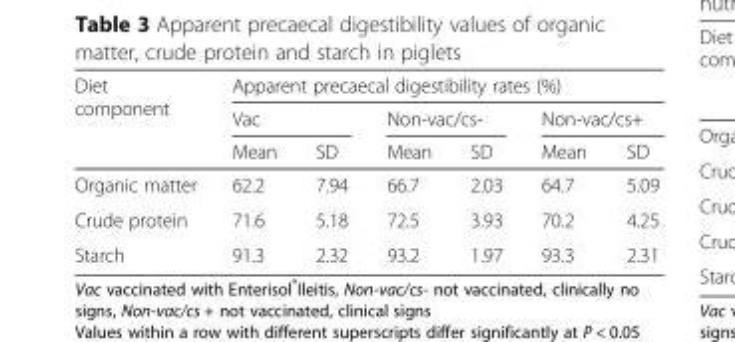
<table><thead><tr><td rowspan="3">Diet component</td><td colspan="6">Apparent precaecal digestibility rates (%)</td></tr><tr><td colspan="2">Vac</td><td colspan="2">Non-vac/cs-</td><td colspan="2">Non-vac/cs+</td></tr><tr><td>Mean</td><td>SD</td><td>Mean</td><td>SD</td><td>Mean</td><td>SD</td></tr></thead><tbody><tr><td>Organic matter</td><td>62.2</td><td>7.94</td><td>66.7</td><td>2.03</td><td>64.7</td><td>5.09</td></tr><tr><td>Crude protein</td><td>71.6</td><td>5.18</td><td>72.5</td><td>3.93</td><td>70.2</td><td>4.25</td></tr><tr><td>Starch</td><td>91.3</td><td>2.32</td><td>93.2</td><td>1.97</td><td>93.3</td><td>2.31</td></tr></tbody></table>